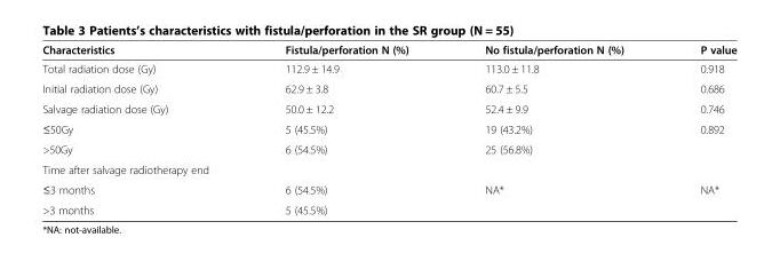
<table><thead><tr><td>Characteristics</td><td>Fistula/perforation N (%)</td><td>No fistula/perforation N (%)</td><td>P value</td></tr></thead><tbody><tr><td>Total radiation dose (Gy)</td><td>112.9 ± 14.9</td><td>113.0 ± 11.8</td><td>0.918</td></tr><tr><td>Initial radiation dose (Gy)</td><td>62.9 ± 3.8</td><td>60.7 ± 5.5</td><td>0.686</td></tr><tr><td>Salvage radiation dose (Gy)</td><td>50.0 ± 12.2</td><td>52.4 ± 9.9</td><td>0.746</td></tr><tr><td>≤50Gy</td><td>5 (45.5%)</td><td>19 (43.2%)</td><td rowspan="2">0.892</td></tr><tr><td>&gt;50Gy</td><td>6 (54.5%)</td><td>25 (56.8%)</td></tr><tr><td colspan="4">Time after salvage radiotherapy end</td></tr><tr><td>≤3 months</td><td>6 (54.5%)</td><td rowspan="2">NA*</td><td rowspan="2">NA*</td></tr><tr><td>&gt;3 months</td><td>5 (45.5%)</td></tr></tbody></table>